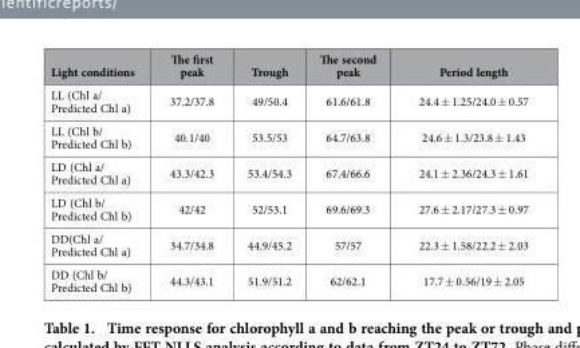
<table><thead><tr><td>Light conditions</td><td>The first peak</td><td>Trough</td><td>The second peak</td><td>Period length</td></tr></thead><tbody><tr><td>LL (Chl a/ Predicted Chl a)</td><td>37.2/37.8</td><td>49/50.4</td><td>61.6/61.8</td><td>24.4 ± 1.25/24.0 ± 0.57</td></tr><tr><td>LL (Chl b/ Predicted Chl b)</td><td>40.1/40</td><td>53.5/53</td><td>64.7/63.8</td><td>24.6 ± 1.3/23.8 ± 1.43</td></tr><tr><td>LD (Chl a/ Predicted Chl a)</td><td>43.3/42.3</td><td>53.4/54.3</td><td>67.4/66.6</td><td>24.1 ± 2.36/24.3 ± 1.61</td></tr><tr><td>LD (Chl b/ Predicted Chl b)</td><td>42/42</td><td>52/53.1</td><td>69.6/69.3</td><td>27.6 ± 2.17/27.3 ± 0.97</td></tr><tr><td>DD(Chl a/ Predicted Chl a)</td><td>34.7/34.8</td><td>44.9/45.2</td><td>57/57</td><td>22.3 ± 1.58/22.2 ± 2.03</td></tr><tr><td>DD (Chl b/ Predicted Chl b)</td><td>44.3/43.1</td><td>51.9/51.2</td><td>62/62.1</td><td>17.7 ± 0.56/19 ± 2.05</td></tr></tbody></table>